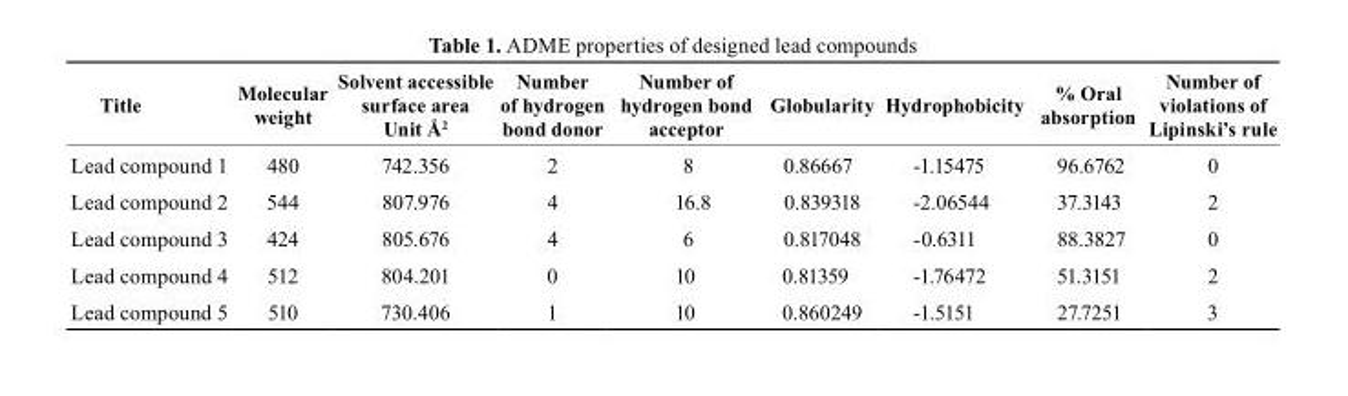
<table><thead><tr><td>title</td><td>Molecular weight</td><td>solvent accessible surface area unit Å<sup>2</sup></td><td>Number of hydrogen bond donor</td><td>Number of hydrogen bond acceptor</td><td>globularity</td><td>Hydrophobicity</td><td>% oral absorption</td><td>Number of violations of lipinski’s rule</td></tr></thead><tbody><tr><td>Lead compound 1</td><td>480</td><td>742.356</td><td>2</td><td>8</td><td>0.86667</td><td>-1.15475</td><td>96.6762</td><td>0</td></tr><tr><td>Lead compound 2</td><td>544</td><td>807.976</td><td>4</td><td>16.8</td><td>0.839318</td><td>-2.06544</td><td>37.3143</td><td>2</td></tr><tr><td>Lead compound 3</td><td>424</td><td>805.676</td><td>4</td><td>6</td><td>0.817048</td><td>-0.6311</td><td>88.3827</td><td>0</td></tr><tr><td>Lead compound 4</td><td>512</td><td>804.201</td><td>0</td><td>10</td><td>0.81359</td><td>-1.76472</td><td>51.3151</td><td>2</td></tr><tr><td>Lead compound 5</td><td>510</td><td>730.406</td><td>1</td><td>10</td><td>0.860249</td><td>-1.5151</td><td>27.7251</td><td>3</td></tr></tbody></table>